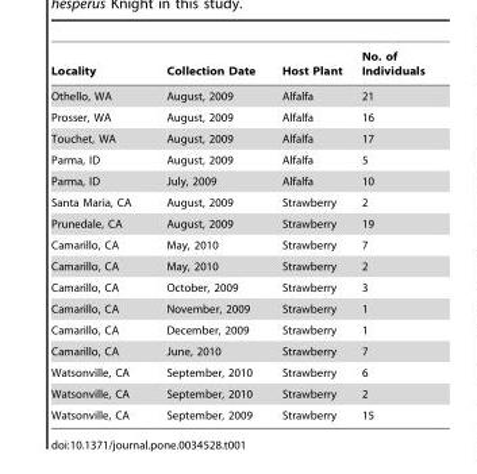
<table><thead><tr><td>Locality</td><td>Collection Date</td><td>Host Plant</td><td>No. of Individuals</td></tr></thead><tbody><tr><td>Othello, WA</td><td>August, 2009</td><td>Alfalfa</td><td>21</td></tr><tr><td>Prosser, WA</td><td>August, 2009</td><td>Alfalfa</td><td>16</td></tr><tr><td>Touchet, WA</td><td>August, 2009</td><td>Alfalfa</td><td>17</td></tr><tr><td>Parma, ID</td><td>August, 2009</td><td>Alfalfa</td><td>5</td></tr><tr><td>Parma, ID</td><td>July, 2009</td><td>Alfalfa</td><td>10</td></tr><tr><td>Santa Maria, CA</td><td>August, 2009</td><td>Strawberry</td><td>2</td></tr><tr><td>Prunedale, CA</td><td>August, 2009</td><td>Strawberry</td><td>19</td></tr><tr><td>Camarillo, CA</td><td>May, 2010</td><td>Strawberry</td><td>7</td></tr><tr><td>Camarillo, CA</td><td>May, 2010</td><td>Strawberry</td><td>2</td></tr><tr><td>Camarillo, CA</td><td>October, 2009</td><td>Strawberry</td><td>3</td></tr><tr><td>Camarillo, CA</td><td>November, 2009</td><td>Strawberry</td><td>1</td></tr><tr><td>Camarillo, CA</td><td>December, 2009</td><td>Strawberry</td><td>1</td></tr><tr><td>Camarillo, CA</td><td>June, 2010</td><td>Strawberry</td><td>7</td></tr><tr><td>Watsonville, CA</td><td>September, 2010</td><td>Strawberry</td><td>6</td></tr><tr><td>Watsonville, CA</td><td>September, 2010</td><td>Strawberry</td><td>2</td></tr><tr><td>Watsonville, CA</td><td>September, 2009</td><td>Strawberry</td><td>15</td></tr></tbody></table>